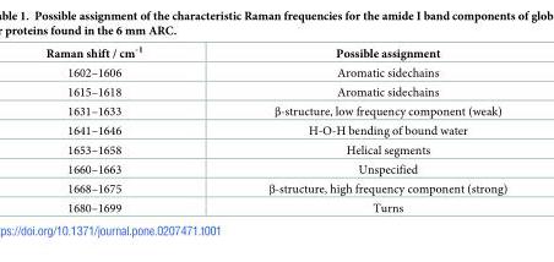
<table><thead><tr><td>Raman shift / cm<sup>-1</sup></td><td>Possible assignment</td></tr></thead><tbody><tr><td>1602–1606</td><td>Aromatic sidechains</td></tr><tr><td>1615–1618</td><td>Aromatic sidechains</td></tr><tr><td>1631–1633</td><td>β-structure, low frequency component (weak)</td></tr><tr><td>1641–1646</td><td>H-O-H bending of bound water</td></tr><tr><td>1653–1658</td><td>Helical segments</td></tr><tr><td>1660–1663</td><td>Unspecified</td></tr><tr><td>1668–1675</td><td>β-structure, high frequency component (strong)</td></tr><tr><td>1680–1699</td><td>Turns</td></tr></tbody></table>